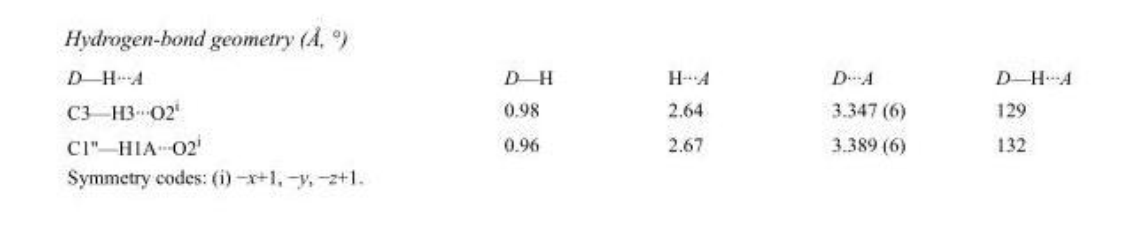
<table><tbody><tr><td>D—H···A</td><td>D—H</td><td>H···A</td><td>D···A</td><td>D—H···A</td></tr><tr><td>C3—H3···O2<sup>i</sup></td><td>0.98</td><td>2.64</td><td>3.347 (6)</td><td>129</td></tr><tr><td>C1&#x27;&#x27;—H1A···O2<sup>i</sup></td><td>0.96</td><td>2.67</td><td>3.389 (6)</td><td>132</td></tr></tbody></table>